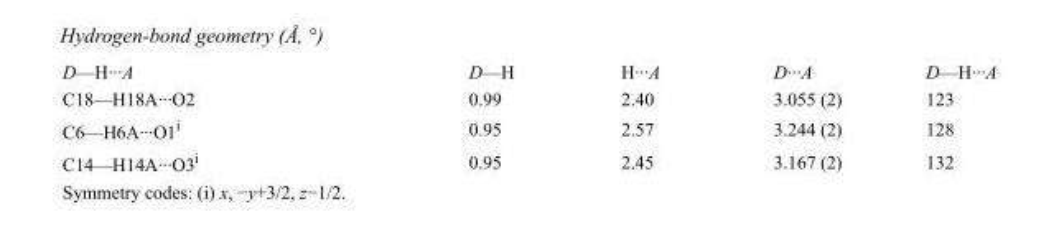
<table><tbody><tr><td>D—H···A</td><td>D—H</td><td>H···A</td><td>D···A</td><td>D—H···A</td></tr><tr><td>C18—H18A···O2</td><td>0.99</td><td>2.40</td><td>3.055 (2)</td><td>123</td></tr><tr><td>C6—H6A···O1<sup>i</sup></td><td>0.95</td><td>2.57</td><td>3.244 (2)</td><td>128</td></tr><tr><td>C14—H14A···O3<sup>i</sup></td><td>0.95</td><td>2.45</td><td>3.167 (2)</td><td>132</td></tr></tbody></table>